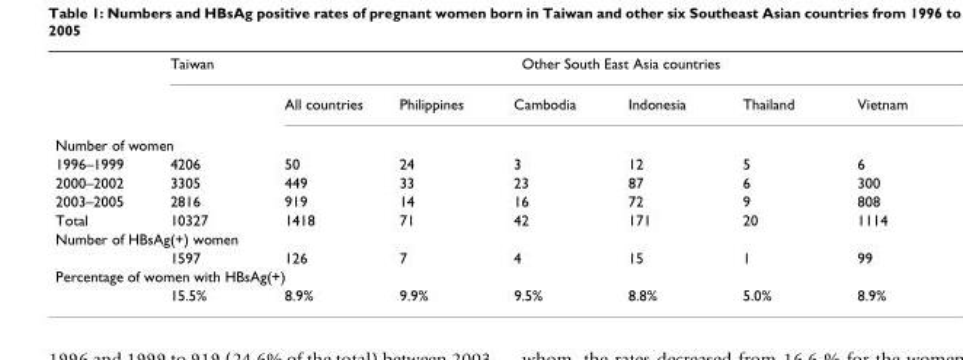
<table><thead><tr><td rowspan="2"></td><td rowspan="2">Taiwan</td><td colspan="6">Other South East Asia countries</td></tr><tr><td>All countries</td><td>Philippines</td><td>Cambodia</td><td>Indonesia</td><td>Thailand</td><td>Vietnam</td></tr></thead><tbody><tr><td colspan="8">Number of women</td></tr><tr><td>1996–1999</td><td>4206</td><td>50</td><td>24</td><td>3</td><td>12</td><td>5</td><td>6</td></tr><tr><td>2000–2002</td><td>3305</td><td>449</td><td>33</td><td>23</td><td>87</td><td>6</td><td>300</td></tr><tr><td>2003–2005</td><td>2816</td><td>919</td><td>14</td><td>16</td><td>72</td><td>9</td><td>808</td></tr><tr><td>Total</td><td>10327</td><td>1418</td><td>71</td><td>42</td><td>171</td><td>20</td><td>1114</td></tr><tr><td colspan="8">Number of HBsAg(+) women</td></tr><tr><td></td><td>1597</td><td>126</td><td>7</td><td>4</td><td>15</td><td>1</td><td>99</td></tr><tr><td colspan="8">Percentage of women with HBsAg(+)</td></tr><tr><td></td><td>15.5%</td><td>8.9%</td><td>9.9%</td><td>9.5%</td><td>8.8%</td><td>5.0%</td><td>8.9%</td></tr></tbody></table>